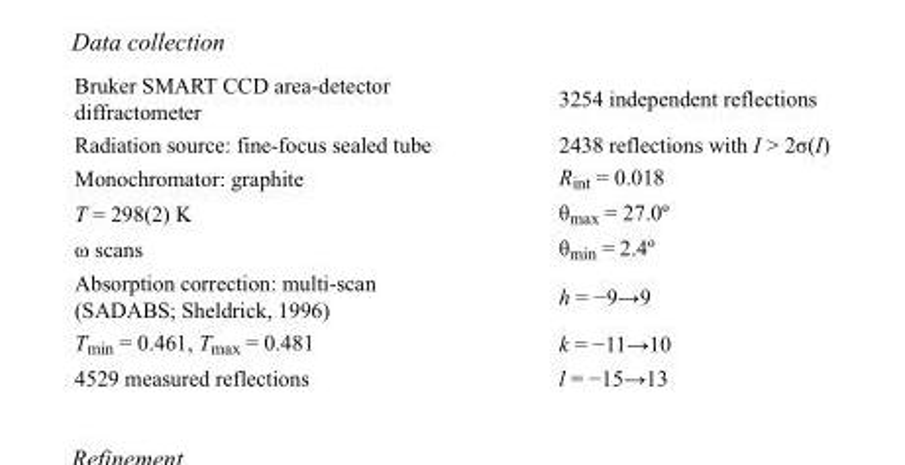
<table><tbody><tr><td>Bruker SMART CCD area-detector diffractometer</td><td>3254 independent reflections</td></tr><tr><td>Radiation source: fine-focus sealed tube</td><td>2438 reflections with I &gt; 2σ(I)</td></tr><tr><td>Monochromator: graphite</td><td>R<sub>int</sub> = 0.018</td></tr><tr><td>T = 298(2) K</td><td>θ<sub>max</sub> = 27.0º</td></tr><tr><td>ω scans</td><td>θ<sub>min</sub> = 2.4º</td></tr><tr><td>Absorption correction: multi-scan (SADABS; Sheldrick, 1996)</td><td>h = −9→9</td></tr><tr><td>T<sub>min</sub> = 0.461, T<sub>max</sub> = 0.481</td><td>k = −11→10</td></tr><tr><td>4529 measured reflections</td><td>l = −15→13</td></tr></tbody></table>